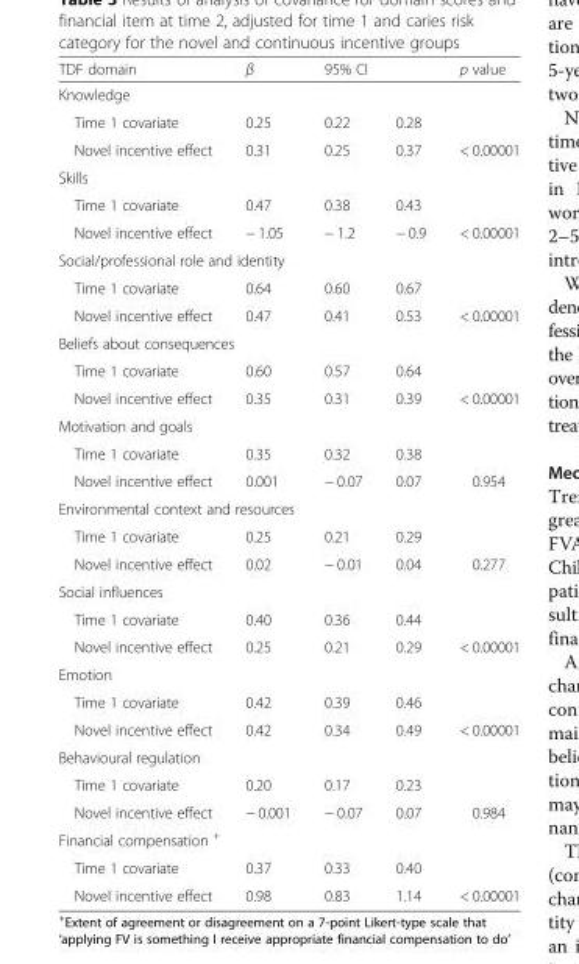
<table><thead><tr><td>TDF domain</td><td>β</td><td colspan="2">95% CI</td><td>p value</td></tr><tr><td colspan="5">Knowledge</td></tr><tr><td>Time 1 covariate</td><td>0.25</td><td>0.22</td><td>0.28</td><td></td></tr></thead><tbody><tr><td>Novel incentive effect</td><td>0.31</td><td>0.25</td><td>0.37</td><td>&lt; 0.00001</td></tr><tr><td colspan="5">Skills</td></tr><tr><td>Time 1 covariate</td><td>0.47</td><td>0.38</td><td>0.43</td><td></td></tr><tr><td>Novel incentive effect</td><td>− 1.05</td><td>− 1.2</td><td>− 0.9</td><td>&lt; 0.00001</td></tr><tr><td colspan="5">Social/professional role and identity</td></tr><tr><td>Time 1 covariate</td><td>0.64</td><td>0.60</td><td>0.67</td><td></td></tr><tr><td>Novel incentive effect</td><td>0.47</td><td>0.41</td><td>0.53</td><td>&lt; 0.00001</td></tr><tr><td colspan="5">Beliefs about consequences</td></tr><tr><td>Time 1 covariate</td><td>0.60</td><td>0.57</td><td>0.64</td><td></td></tr><tr><td>Novel incentive effect</td><td>0.35</td><td>0.31</td><td>0.39</td><td>&lt; 0.00001</td></tr><tr><td colspan="5">Motivation and goals</td></tr><tr><td>Time 1 covariate</td><td>0.35</td><td>0.32</td><td>0.38</td><td></td></tr><tr><td>Novel incentive effect</td><td>0.001</td><td>− 0.07</td><td>0.07</td><td>0.954</td></tr><tr><td colspan="5">Environmental context and resources</td></tr><tr><td>Time 1 covariate</td><td>0.25</td><td>0.21</td><td>0.29</td><td></td></tr><tr><td>Novel incentive effect</td><td>0.02</td><td>− 0.01</td><td>0.04</td><td>0.277</td></tr><tr><td colspan="5">Social influences</td></tr><tr><td>Time 1 covariate</td><td>0.40</td><td>0.36</td><td>0.44</td><td></td></tr><tr><td>Novel incentive effect</td><td>0.25</td><td>0.21</td><td>0.29</td><td>&lt; 0.00001</td></tr><tr><td colspan="5">Emotion</td></tr><tr><td>Time 1 covariate</td><td>0.42</td><td>0.39</td><td>0.46</td><td></td></tr><tr><td>Novel incentive effect</td><td>0.42</td><td>0.34</td><td>0.49</td><td>&lt; 0.00001</td></tr><tr><td colspan="5">Behavioural regulation</td></tr><tr><td>Time 1 covariate</td><td>0.20</td><td>0.17</td><td>0.23</td><td></td></tr><tr><td>Novel incentive effect</td><td>− 0.001</td><td>− 0.07</td><td>0.07</td><td>0.984</td></tr><tr><td colspan="5">Financial compensation <sup>+</sup></td></tr><tr><td>Time 1 covariate</td><td>0.37</td><td>0.33</td><td>0.40</td><td></td></tr><tr><td>Novel incentive effect</td><td>0.98</td><td>0.83</td><td>1.14</td><td>&lt; 0.00001</td></tr></tbody></table>